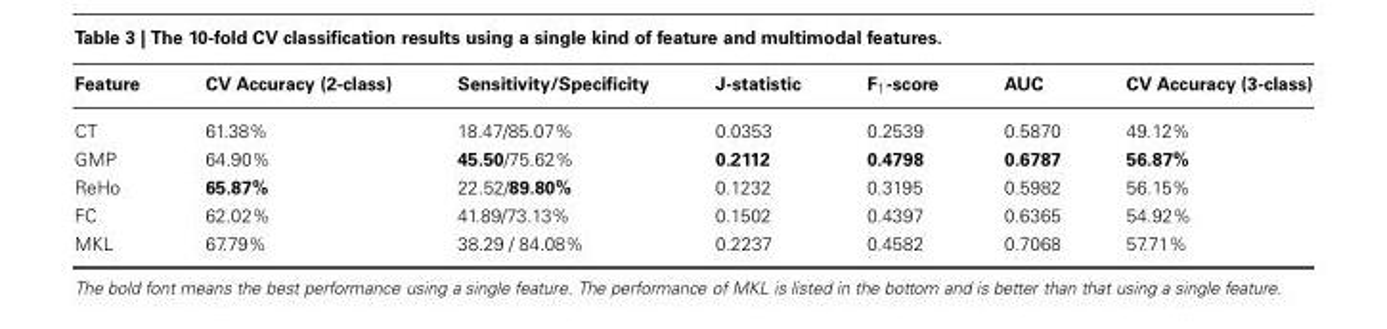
<table><thead><tr><td>Feature</td><td>CV Accuracy (2-class)</td><td>Sensitivity/Specificity</td><td>J-statistic</td><td>F<sub>1</sub>-score</td><td>AUC</td><td>CV Accuracy (3-class)</td></tr></thead><tbody><tr><td>CT</td><td>61.38%</td><td>18.47/85.07%</td><td>0.0353</td><td>0.2539</td><td>0.5870</td><td>49.12%</td></tr><tr><td>GMP</td><td>64.90%</td><td>45.50/75.62%</td><td>0.2112</td><td>0.4798</td><td>0.6787</td><td>56.87%</td></tr><tr><td>ReHo</td><td>65.87%</td><td>22.52/89.80%</td><td>0.1232</td><td>0.3195</td><td>0.5982</td><td>56.15%</td></tr><tr><td>FC</td><td>62.02%</td><td>41.89/73.13%</td><td>0.1502</td><td>0.4397</td><td>0.6365</td><td>54.92%</td></tr><tr><td>MKL</td><td>67.79%</td><td>38.29 / 84.08%</td><td>0.2237</td><td>0.4582</td><td>0.7068</td><td>57.71%</td></tr></tbody></table>